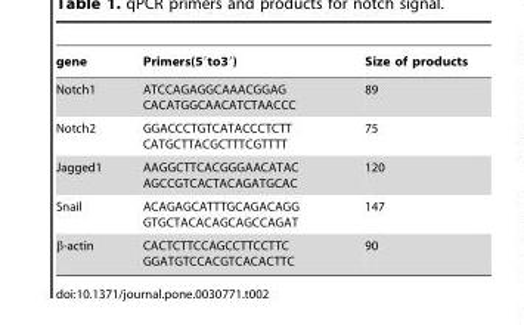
<table><thead><tr><td>gene</td><td>Primers(5′to3′)</td><td>Size of products</td></tr></thead><tbody><tr><td>Notch1</td><td>ATCCAGAGGCAAACGGAG CACATGGCAACATCTAACCC</td><td>89</td></tr><tr><td>Notch2</td><td>GGACCCTGTCATACCCTCTT CATGCTTACGCTTTCGTTTT</td><td>75</td></tr><tr><td>Jagged1</td><td>AAGGCTTCACGGGAACATAC AGCCGTCACTACAGATGCAC</td><td>120</td></tr><tr><td>Snail</td><td>ACAGAGCATTTGCAGACAGG GTGCTACACAGCAGCCAGAT</td><td>147</td></tr><tr><td>β-actin</td><td>CACTCTTCCAGCCTTCCTTC GGATGTCCACGTCACACTTC</td><td>90</td></tr></tbody></table>